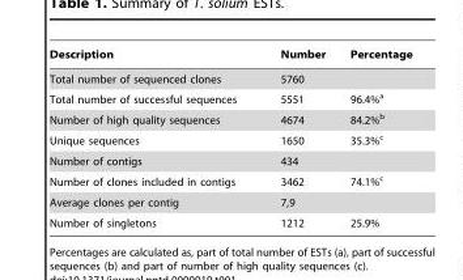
<table><thead><tr><td>Description</td><td>Number</td><td>Percentage</td></tr></thead><tbody><tr><td>Total number of sequenced clones</td><td>5760</td><td></td></tr><tr><td>Total number of successful sequences</td><td>5551</td><td>96.4%<sup>a</sup></td></tr><tr><td>Number of high quality sequences</td><td>4674</td><td>84.2%<sup>b</sup></td></tr><tr><td>Unique sequences</td><td>1650</td><td>35.3%<sup>c</sup></td></tr><tr><td>Number of contigs</td><td>434</td><td></td></tr><tr><td>Number of clones included in contigs</td><td>3462</td><td>74.1%<sup>c</sup></td></tr><tr><td>Average clones per contig</td><td>7,9</td><td></td></tr><tr><td>Number of singletons</td><td>1212</td><td>25.9%</td></tr></tbody></table>